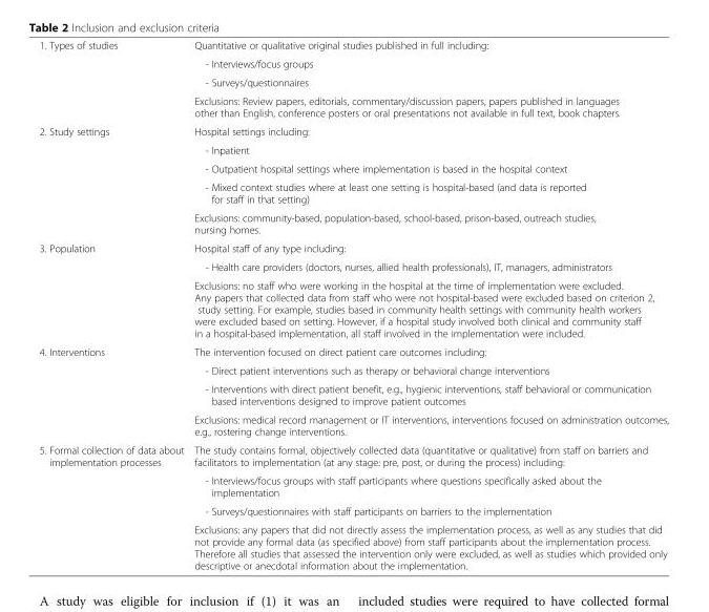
<table><tbody><tr><td rowspan="4">1. Types of studies</td><td>Quantitative or qualitative original studies published in full including:</td></tr><tr><td>- Interviews/focus groups</td></tr><tr><td>- Surveys/questionnaires</td></tr><tr><td>Exclusions: Review papers, editorials, commentary/discussion papers, papers published in languages other than English, conference posters or oral presentations not available in full text, book chapters.</td></tr><tr><td rowspan="5">2. Study settings</td><td>Hospital settings including:</td></tr><tr><td>- Inpatient</td></tr><tr><td>- Outpatient hospital settings where implementation is based in the hospital context</td></tr><tr><td>- Mixed context studies where at least one setting is hospital-based (and data is reported for staff in that setting)</td></tr><tr><td>Exclusions: community-based, population-based, school-based, prison-based, outreach studies, nursing homes.</td></tr><tr><td rowspan="3">3. Population</td><td>Hospital staff of any type including:</td></tr><tr><td>- Health care providers (doctors, nurses, allied health professionals), IT, managers, administrators</td></tr><tr><td>Exclusions: no staff who were working in the hospital at the time of implementation were excluded. Any papers that collected data from staff who were not hospital-based were excluded based on criterion 2, study setting. For example, studies based in community health settings with community health workers were excluded based on setting. However, if a hospital study involved both clinical and community staff in a hospital-based implementation, all staff involved in the implementation were included.</td></tr><tr><td rowspan="4">4. Interventions</td><td>The intervention focused on direct patient care outcomes including:</td></tr><tr><td>- Direct patient interventions such as therapy or behavioral change interventions</td></tr><tr><td>- Interventions with direct patient benefit, e.g., hygienic interventions, staff behavioral or communication based interventions designed to improve patient outcomes</td></tr><tr><td>Exclusions: medical record management or IT interventions, interventions focused on administration outcomes, e.g., rostering change interventions.</td></tr><tr><td rowspan="4">5. Formal collection of data about implementation processes</td><td>The study contains formal, objectively collected data (quantitative or qualitative) from staff on barriers and facilitators to implementation (at any stage: pre, post, or during the process) including:</td></tr><tr><td>- Interviews/focus groups with staff participants where questions specifically asked about the implementation</td></tr><tr><td>- Surveys/questionnaires with staff participants on barriers to the implementation</td></tr><tr><td>Exclusions: any papers that did not directly assess the implementation process, as well as any studies that did not provide any formal data (as specified above) from staff participants about the implementation process. Therefore all studies that assessed the intervention only were excluded, as well as studies which provided only descriptive or anecdotal information about the implementation.</td></tr></tbody></table>